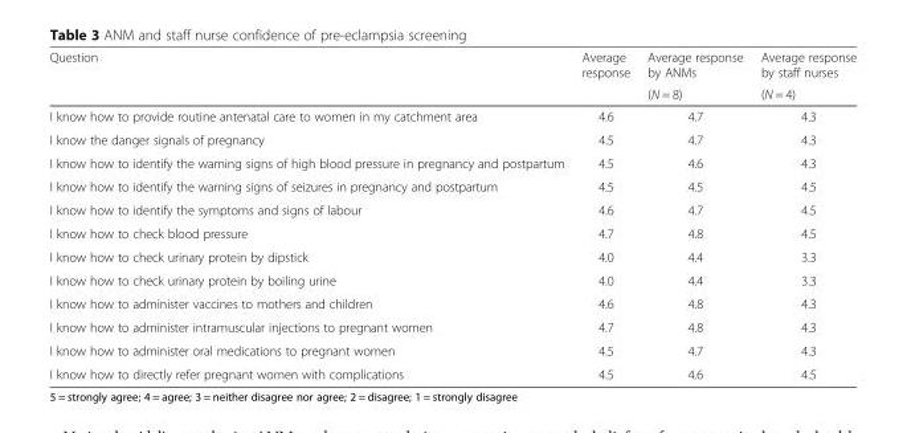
<table><thead><tr><td rowspan="2">Question</td><td rowspan="2">Average response</td><td rowspan="2">Average response by ANMs (N = 8)</td><td rowspan="2">Average response by staff nurses (N = 4)</td></tr><tr></tr></thead><tbody><tr><td>I know how to provide routine antenatal care to women in my catchment area</td><td>4.6</td><td>4.7</td><td>4.3</td></tr><tr><td>I know the danger signals of pregnancy</td><td>4.5</td><td>4.7</td><td>4.3</td></tr><tr><td>I know how to identify the warning signs of high blood pressure in pregnancy and postpartum</td><td>4.5</td><td>4.6</td><td>4.3</td></tr><tr><td>I know how to identify the warning signs of seizures in pregnancy and postpartum</td><td>4.5</td><td>4.5</td><td>4.5</td></tr><tr><td>I know how to identify the symptoms and signs of labour</td><td>4.6</td><td>4.7</td><td>4.5</td></tr><tr><td>I know how to check blood pressure</td><td>4.7</td><td>4.8</td><td>4.5</td></tr><tr><td>I know how to check urinary protein by dipstick</td><td>4.0</td><td>4.4</td><td>3.3</td></tr><tr><td>I know how to check urinary protein by boiling urine</td><td>4.0</td><td>4.4</td><td>3.3</td></tr><tr><td>I know how to administer vaccines to mothers and children</td><td>4.6</td><td>4.8</td><td>4.3</td></tr><tr><td>I know how to administer intramuscular injections to pregnant women</td><td>4.7</td><td>4.8</td><td>4.3</td></tr><tr><td>I know how to administer oral medications to pregnant women</td><td>4.5</td><td>4.7</td><td>4.3</td></tr><tr><td>I know how to directly refer pregnant women with complications</td><td>4.5</td><td>4.6</td><td>4.5</td></tr></tbody></table>